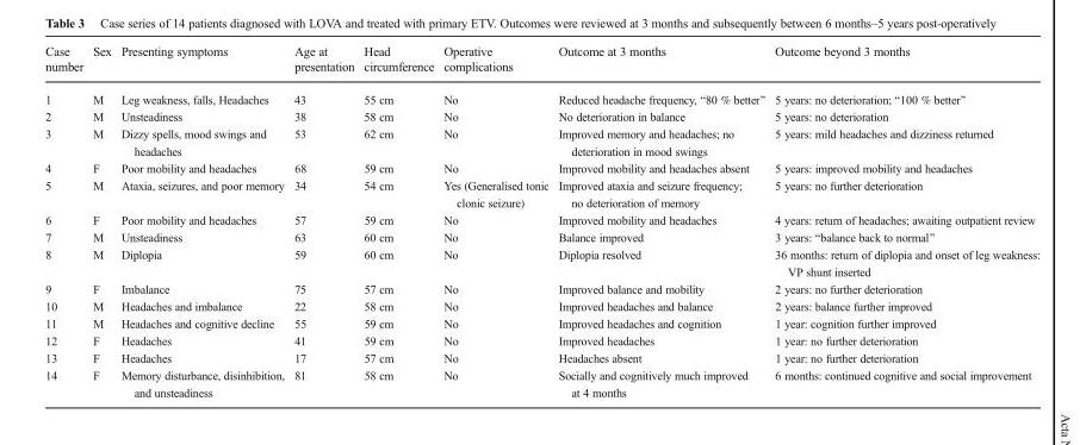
<table><thead><tr><td>Case number</td><td>Sex</td><td>Presenting symptoms</td><td>Age at presentation</td><td>Head circumference</td><td>Operative complications</td><td>Outcome at 3 months</td><td>Outcome beyond 3 months</td></tr></thead><tbody><tr><td>1</td><td>M</td><td>Leg weakness, falls, Headaches</td><td>43</td><td>55 cm</td><td>No</td><td>Reduced headache frequency, “80 % better”</td><td>5 years: no deterioration; “100 % better”</td></tr><tr><td>2</td><td>M</td><td>Unsteadiness</td><td>38</td><td>58 cm</td><td>No</td><td>No deterioration in balance</td><td>5 years: no deterioration</td></tr><tr><td>3</td><td>M</td><td>Dizzy spells, mood swings and headaches</td><td>53</td><td>62 cm</td><td>No</td><td>Improved memory and headaches; no deterioration in mood swings</td><td>5 years: mild headaches and dizziness returned</td></tr><tr><td>4</td><td>F</td><td>Poor mobility and headaches</td><td>68</td><td>59 cm</td><td>No</td><td>Improved mobility and headaches absent</td><td>5 years: improved mobility and headaches</td></tr><tr><td>5</td><td>M</td><td>Ataxia, seizures, and poor memory</td><td>34</td><td>54 cm</td><td>Yes (Generalised tonic clonic seizure)</td><td>Improved ataxia and seizure frequency; no deterioration of memory</td><td>5 years: no further deterioration</td></tr><tr><td>6</td><td>F</td><td>Poor mobility and headaches</td><td>57</td><td>59 cm</td><td>No</td><td>Improved mobility and headaches</td><td>4 years: return of headaches; awaiting outpatient review</td></tr><tr><td>7</td><td>M</td><td>Unsteadiness</td><td>63</td><td>60 cm</td><td>No</td><td>Balance improved</td><td>3 years: “balance back to normal”</td></tr><tr><td>8</td><td>M</td><td>Diplopia</td><td>59</td><td>60 cm</td><td>No</td><td>Diplopia resolved</td><td>36 months: return of diplopia and onset of leg weakness: VP shunt inserted</td></tr><tr><td>9</td><td>F</td><td>Imbalance</td><td>75</td><td>57 cm</td><td>No</td><td>Improved balance and mobility</td><td>2 years: no further deterioration</td></tr><tr><td>10</td><td>M</td><td>Headaches and imbalance</td><td>22</td><td>58 cm</td><td>No</td><td>Improved headaches and balance</td><td>2 years: balance further improved</td></tr><tr><td>11</td><td>M</td><td>Headaches and cognitive decline</td><td>55</td><td>59 cm</td><td>No</td><td>Improved headaches and cognition</td><td>1 year: cognition further improved</td></tr><tr><td>12</td><td>F</td><td>Headaches</td><td>41</td><td>59 cm</td><td>No</td><td>Improved headaches</td><td>1 year: no further deterioration</td></tr><tr><td>13</td><td>F</td><td>Headaches</td><td>17</td><td>57 cm</td><td>No</td><td>Headaches absent</td><td>1 year: no further deterioration</td></tr><tr><td>14</td><td>F</td><td>Memory disturbance, disinhibition, and unsteadiness</td><td>81</td><td>58 cm</td><td>No</td><td>Socially and cognitively much improved at 4 months</td><td>6 months: continued cognitive and social improvement</td></tr></tbody></table>